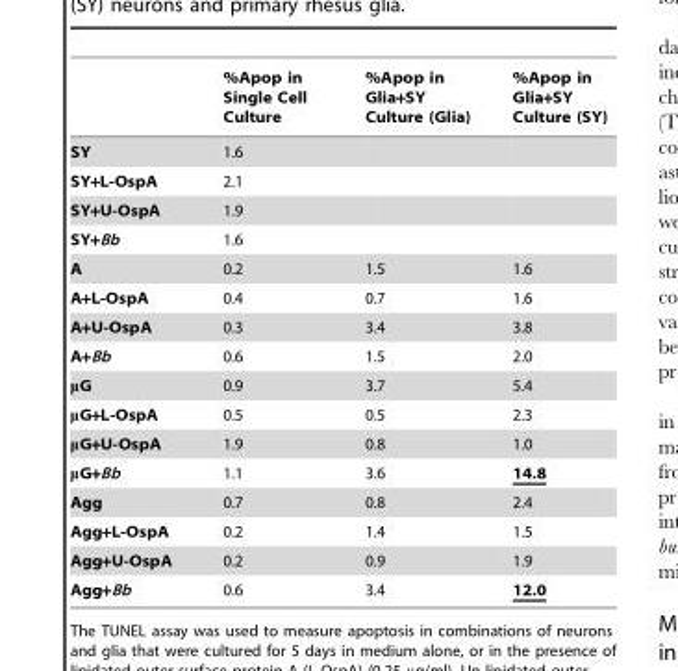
<table><thead><tr><td></td><td>%Apop in Single Cell Culture</td><td>%Apop in Glia+SY Culture (Glia)</td><td>%Apop in Glia+SY Culture (SY)</td></tr></thead><tbody><tr><td>SY</td><td>1.6</td><td></td><td></td></tr><tr><td>SY+L-OspA</td><td>2.1</td><td></td><td></td></tr><tr><td>SY+U-OspA</td><td>1.9</td><td></td><td></td></tr><tr><td>SY+Bb</td><td>1.6</td><td></td><td></td></tr><tr><td>A</td><td>0.2</td><td>1.5</td><td>1.6</td></tr><tr><td>A+L-OspA</td><td>0.4</td><td>0.7</td><td>1.6</td></tr><tr><td>A+U-OspA</td><td>0.3</td><td>3.4</td><td>3.8</td></tr><tr><td>A+Bb</td><td>0.6</td><td>1.5</td><td>2.0</td></tr><tr><td>μG</td><td>0.9</td><td>3.7</td><td>5.4</td></tr><tr><td>μG+L-OspA</td><td>0.5</td><td>0.5</td><td>2.3</td></tr><tr><td>μG+U-OspA</td><td>1.9</td><td>0.8</td><td>1.0</td></tr><tr><td>μG+Bb</td><td>1.1</td><td>3.6</td><td>14.8</td></tr><tr><td>Agg</td><td>0.7</td><td>0.8</td><td>2.4</td></tr><tr><td>Agg+L-OspA</td><td>0.2</td><td>1.4</td><td>1.5</td></tr><tr><td>Agg+U-OspA</td><td>0.2</td><td>0.9</td><td>1.9</td></tr><tr><td>Agg+Bb</td><td>0.6</td><td>3.4</td><td>12.0</td></tr></tbody></table>